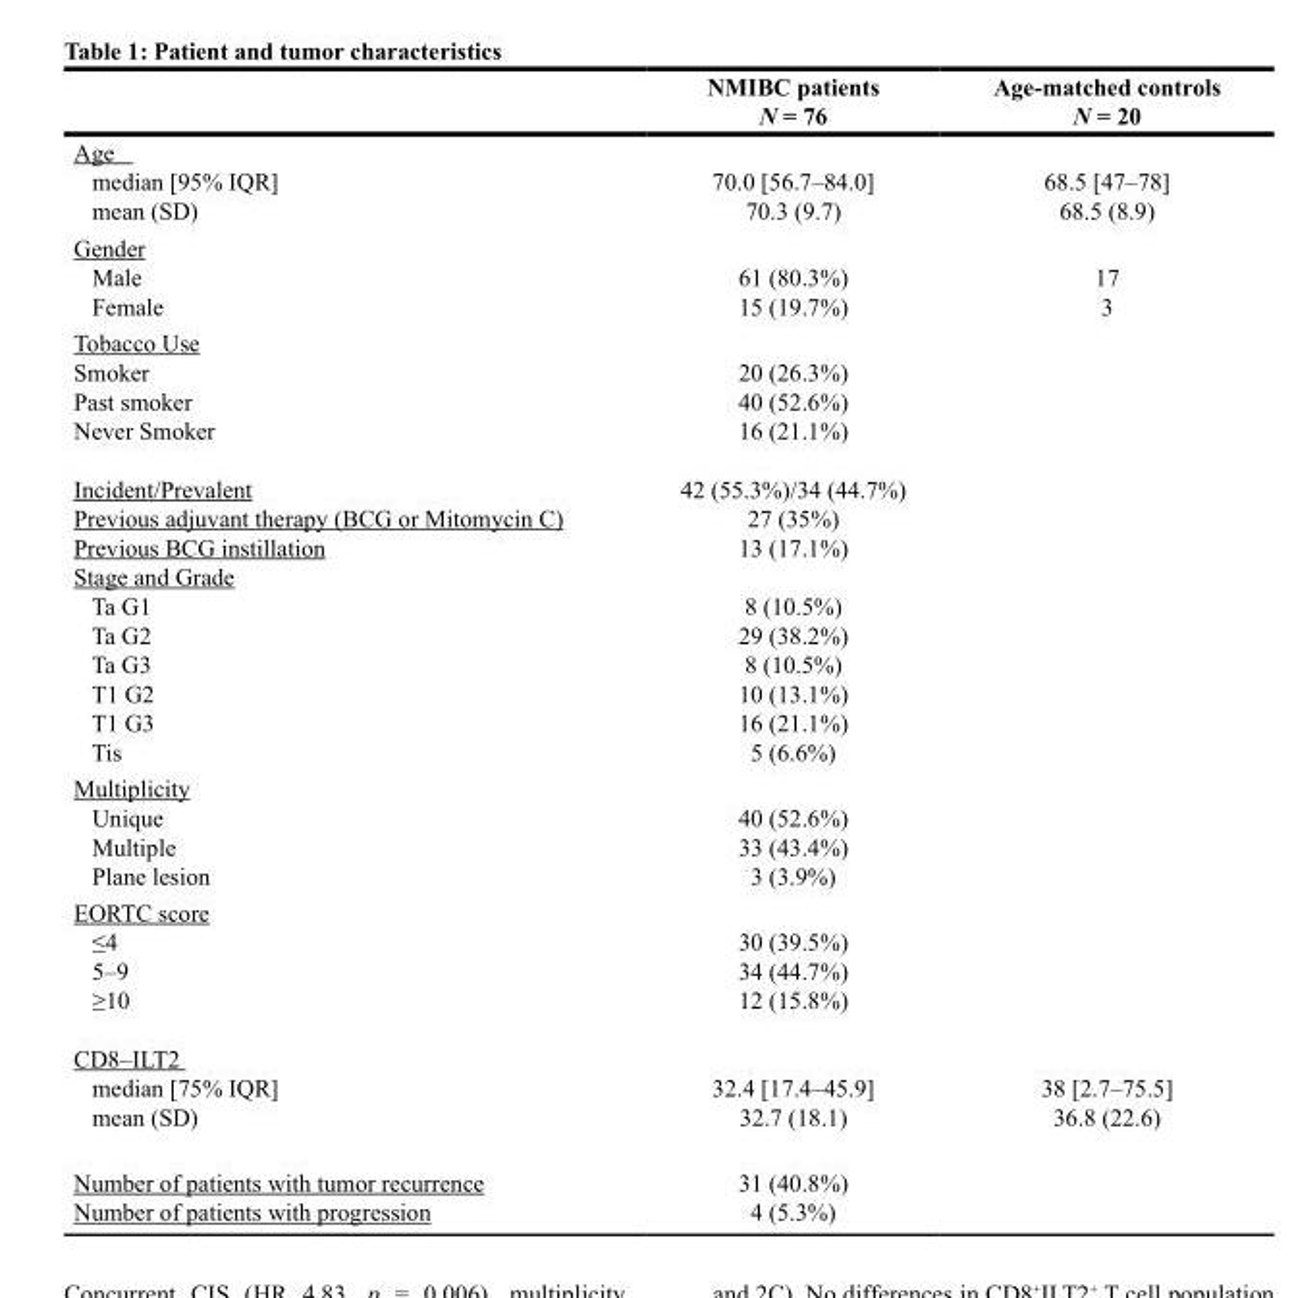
<table><thead><tr><td></td><td>NMIBC patients N = 76</td><td>Age-matched controls N = 20</td></tr></thead><tbody><tr><td>Age median [95% IQR] mean (SD)</td><td>70.0 [56.7–84.0] 70.3 (9.7)</td><td>68.5 [47–78] 68.5 (8.9)</td></tr><tr><td>Gender Male Female</td><td>61 (80.3%) 15 (19.7%)</td><td>17 3</td></tr><tr><td>Tobacco Use Smoker Past smoker Never Smoker Incident/Prevalent Previous adjuvant therapy (BCG or Mitomycin C) Previous BCG instillation Stage and Grade Ta G1 Ta G2 Ta G3 T1 G2 T1 G3 Tis</td><td>20 (26.3%) 40 (52.6%) 16 (21.1%) 42 (55.3%)/34 (44.7%) 27 (35%) 13 (17.1%) 8 (10.5%) 29 (38.2%) 8 (10.5%) 10 (13.1%) 16 (21.1%) 5 (6.6%)</td><td></td></tr><tr><td>Multiplicity Unique Multiple Plane lesion</td><td>40 (52.6%) 33 (43.4%) 3 (3.9%)</td><td></td></tr><tr><td>EORTC score ≤4 5–9 ≥10 CD8–ILT2 median [75% IQR] mean (SD)</td><td>30 (39.5%) 34 (44.7%) 12 (15.8%) 32.4 [17.4–45.9] 32.7 (18.1)</td><td>38 [2.7–75.5] 36.8 (22.6)</td></tr><tr><td>Number of patients with tumor recurrence Number of patients with progression</td><td>31 (40.8%) 4 (5.3%)</td><td></td></tr></tbody></table>